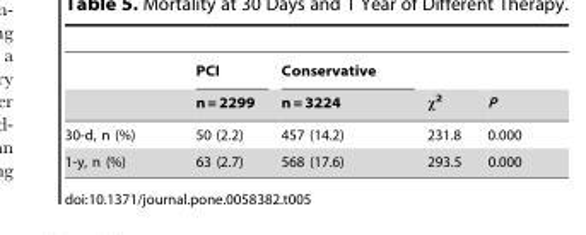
<table><thead><tr><td rowspan="2"></td><td rowspan="2">PCI n = 2299</td><td rowspan="2">Conservative n = 3224</td><td rowspan="2">x2</td><td rowspan="2">P</td></tr><tr></tr></thead><tbody><tr><td>30-d, n (%)</td><td>50 (2.2)</td><td>457 (14.2)</td><td>231.8</td><td>0.000</td></tr><tr><td>1-y, n (%)</td><td>63 (2.7)</td><td>568 (17.6)</td><td>293.5</td><td>0.000</td></tr></tbody></table>